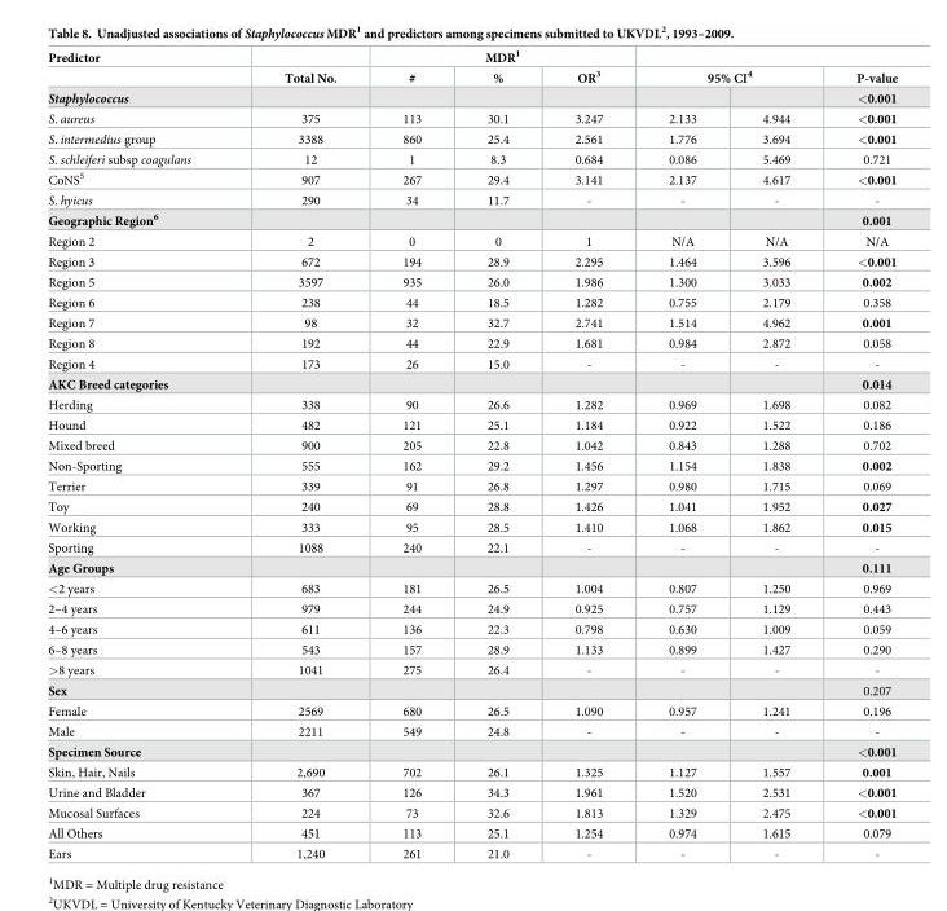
<table><thead><tr><td rowspan="2">Predictor</td><td rowspan="2">Total No.</td><td colspan="3">MDR<sup>1</sup></td><td></td><td></td><td rowspan="2">P-value</td></tr><tr><td>#</td><td>%</td><td>OR<sup>3</sup></td><td colspan="2">95% CI<sup>4</sup></td></tr></thead><tbody><tr><td>Staphylococcus</td><td></td><td></td><td></td><td></td><td></td><td></td><td>&lt;0.001</td></tr><tr><td>S. aureus</td><td>375</td><td>113</td><td>30.1</td><td>3.247</td><td>2.133</td><td>4.944</td><td>&lt;0.001</td></tr><tr><td>S. intermedius group</td><td>3388</td><td>860</td><td>25.4</td><td>2.561</td><td>1.776</td><td>3.694</td><td>&lt;0.001</td></tr><tr><td>S. schleiferi subsp coagulans</td><td>12</td><td>1</td><td>8.3</td><td>0.684</td><td>0.086</td><td>5.469</td><td>0.721</td></tr><tr><td>CoNS<sup>5</sup></td><td>907</td><td>267</td><td>29.4</td><td>3.141</td><td>2.137</td><td>4.617</td><td>&lt;0.001</td></tr><tr><td>S. hyicus</td><td>290</td><td>34</td><td>11.7</td><td>-</td><td>-</td><td>-</td><td>-</td></tr><tr><td>Geographic Region<sup>6</sup></td><td></td><td></td><td></td><td></td><td></td><td></td><td>0.001</td></tr><tr><td>Region 2</td><td>2</td><td>0</td><td>0</td><td>1</td><td>N/A</td><td>N/A</td><td>N/A</td></tr><tr><td>Region 3</td><td>672</td><td>194</td><td>28.9</td><td>2.295</td><td>1.464</td><td>3.596</td><td>&lt;0.001</td></tr><tr><td>Region 5</td><td>3597</td><td>935</td><td>26.0</td><td>1.986</td><td>1.300</td><td>3.033</td><td>0.002</td></tr><tr><td>Region 6</td><td>238</td><td>44</td><td>18.5</td><td>1.282</td><td>0.755</td><td>2.179</td><td>0.358</td></tr><tr><td>Region 7</td><td>98</td><td>32</td><td>32.7</td><td>2.741</td><td>1.514</td><td>4.962</td><td>0.001</td></tr><tr><td>Region 8</td><td>192</td><td>44</td><td>22.9</td><td>1.681</td><td>0.984</td><td>2.872</td><td>0.058</td></tr><tr><td>Region 4</td><td>173</td><td>26</td><td>15.0</td><td>-</td><td>-</td><td>-</td><td>-</td></tr><tr><td>AKC Breed categories</td><td></td><td></td><td></td><td></td><td></td><td></td><td>0.014</td></tr><tr><td>Herding</td><td>338</td><td>90</td><td>26.6</td><td>1.282</td><td>0.969</td><td>1.698</td><td>0.082</td></tr><tr><td>Hound</td><td>482</td><td>121</td><td>25.1</td><td>1.184</td><td>0.922</td><td>1.522</td><td>0.186</td></tr><tr><td>Mixed breed</td><td>900</td><td>205</td><td>22.8</td><td>1.042</td><td>0.843</td><td>1.288</td><td>0.702</td></tr><tr><td>Non-Sporting</td><td>555</td><td>162</td><td>29.2</td><td>1.456</td><td>1.154</td><td>1.838</td><td>0.002</td></tr><tr><td>Terrier</td><td>339</td><td>91</td><td>26.8</td><td>1.297</td><td>0.980</td><td>1.715</td><td>0.069</td></tr><tr><td>Toy</td><td>240</td><td>69</td><td>28.8</td><td>1.426</td><td>1.041</td><td>1.952</td><td>0.027</td></tr><tr><td>Working</td><td>333</td><td>95</td><td>28.5</td><td>1.410</td><td>1.068</td><td>1.862</td><td>0.015</td></tr><tr><td>Sporting</td><td>1088</td><td>240</td><td>22.1</td><td>-</td><td>-</td><td>-</td><td>-</td></tr><tr><td>Age Groups</td><td></td><td></td><td></td><td></td><td></td><td></td><td>0.111</td></tr><tr><td>&lt;2 years</td><td>683</td><td>181</td><td>26.5</td><td>1.004</td><td>0.807</td><td>1.250</td><td>0.969</td></tr><tr><td>2–4 years</td><td>979</td><td>244</td><td>24.9</td><td>0.925</td><td>0.757</td><td>1.129</td><td>0.443</td></tr><tr><td>4–6 years</td><td>611</td><td>136</td><td>22.3</td><td>0.798</td><td>0.630</td><td>1.009</td><td>0.059</td></tr><tr><td>6–8 years</td><td>543</td><td>157</td><td>28.9</td><td>1.133</td><td>0.899</td><td>1.427</td><td>0.290</td></tr><tr><td>&gt;8 years</td><td>1041</td><td>275</td><td>26.4</td><td>-</td><td>-</td><td>-</td><td>-</td></tr><tr><td>Sex</td><td></td><td></td><td></td><td></td><td></td><td></td><td>0.207</td></tr><tr><td>Female</td><td>2569</td><td>680</td><td>26.5</td><td>1.090</td><td>0.957</td><td>1.241</td><td>0.196</td></tr><tr><td>Male</td><td>2211</td><td>549</td><td>24.8</td><td>-</td><td>-</td><td>-</td><td>-</td></tr><tr><td>Specimen Source</td><td></td><td></td><td></td><td></td><td></td><td></td><td>&lt;0.001</td></tr><tr><td>Skin, Hair, Nails</td><td>2,690</td><td>702</td><td>26.1</td><td>1.325</td><td>1.127</td><td>1.557</td><td>0.001</td></tr><tr><td>Urine and Bladder</td><td>367</td><td>126</td><td>34.3</td><td>1.961</td><td>1.520</td><td>2.531</td><td>&lt;0.001</td></tr><tr><td>Mucosal Surfaces</td><td>224</td><td>73</td><td>32.6</td><td>1.813</td><td>1.329</td><td>2.475</td><td>&lt;0.001</td></tr><tr><td>All Others</td><td>451</td><td>113</td><td>25.1</td><td>1.254</td><td>0.974</td><td>1.615</td><td>0.079</td></tr><tr><td>Ears</td><td>1,240</td><td>261</td><td>21.0</td><td>-</td><td>-</td><td>-</td><td>-</td></tr></tbody></table>